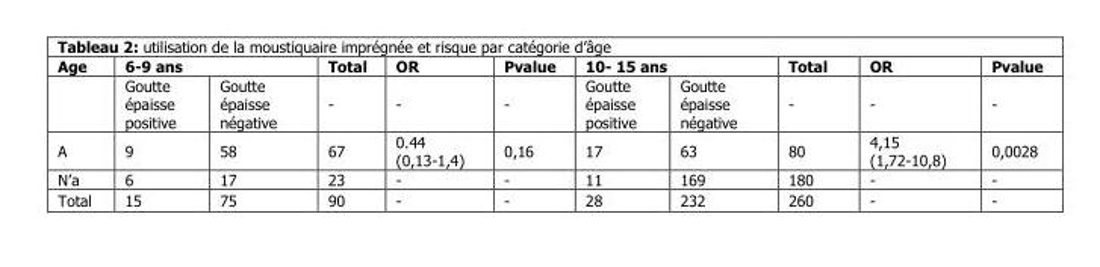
<table><thead><tr><td rowspan="2">Age</td><td colspan="2">6-9 ans</td><td rowspan="2">Total -</td><td rowspan="2">OR -</td><td rowspan="2">Pvalue -</td><td colspan="2">10- 15 ans</td><td rowspan="2">Total -</td><td rowspan="2">OR -</td><td rowspan="2">Pvalue -</td></tr><tr><td>Goutte épaisse positive</td><td>Goutte épaisse négative</td><td>Goutte épaisse positive</td><td>Goutte épaisse négative</td></tr></thead><tbody><tr><td>A</td><td>9</td><td>58</td><td>67</td><td>0.44 (0,13-1,4)</td><td>0,16</td><td>17</td><td>63</td><td>80</td><td>4,15 (1,72-10,8)</td><td>0,0028</td></tr><tr><td>N’a</td><td>6</td><td>17</td><td>23</td><td>-</td><td>-</td><td>11</td><td>169</td><td>180</td><td>-</td><td>-</td></tr><tr><td>Total</td><td>15</td><td>75</td><td>90</td><td>-</td><td>-</td><td>28</td><td>232</td><td>260</td><td>-</td><td>-</td></tr></tbody></table>